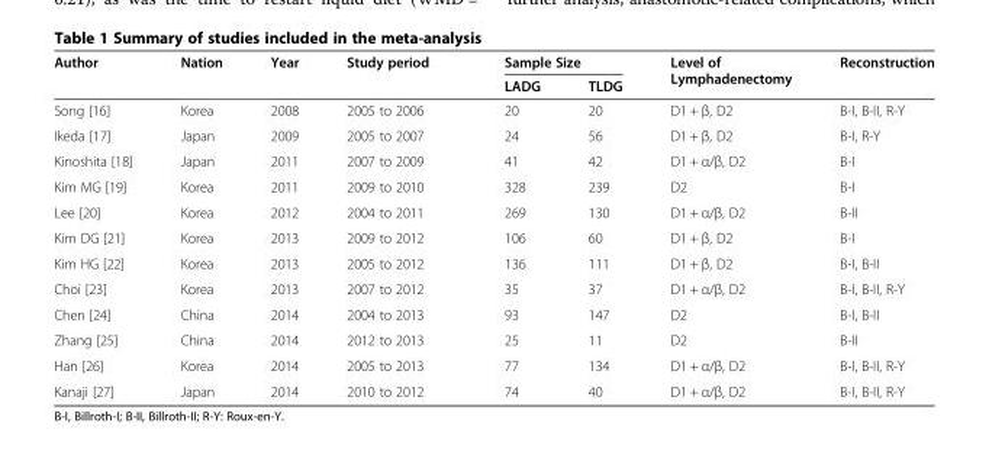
<table><thead><tr><td rowspan="2">Author</td><td rowspan="2">Nation</td><td rowspan="2">Year</td><td rowspan="2">Study period</td><td colspan="2">Sample Size</td><td rowspan="2">Level of Lymphadenectomy</td><td rowspan="2">Reconstruction</td></tr><tr><td>LADG</td><td>TLDG</td></tr></thead><tbody><tr><td>Song [16]</td><td>Korea</td><td>2008</td><td>2005 to 2006</td><td>20</td><td>20</td><td>D1 + β, D2</td><td>B-I, B-II, R-Y</td></tr><tr><td>Ikeda [17]</td><td>Japan</td><td>2009</td><td>2005 to 2007</td><td>24</td><td>56</td><td>D1 + β, D2</td><td>B-I, R-Y</td></tr><tr><td>Kinoshita [18]</td><td>Japan</td><td>2011</td><td>2007 to 2009</td><td>41</td><td>42</td><td>D1 + α/β, D2</td><td>B-I</td></tr><tr><td>Kim MG [19]</td><td>Korea</td><td>2011</td><td>2009 to 2010</td><td>328</td><td>239</td><td>D2</td><td>B-I</td></tr><tr><td>Lee [20]</td><td>Korea</td><td>2012</td><td>2004 to 2011</td><td>269</td><td>130</td><td>D1 + α/β, D2</td><td>B-II</td></tr><tr><td>Kim DG [21]</td><td>Korea</td><td>2013</td><td>2009 to 2012</td><td>106</td><td>60</td><td>D1 + β, D2</td><td>B-I</td></tr><tr><td>Kim HG [22]</td><td>Korea</td><td>2013</td><td>2005 to 2012</td><td>136</td><td>111</td><td>D1 + β, D2</td><td>B-I, B-II</td></tr><tr><td>Choi [23]</td><td>Korea</td><td>2013</td><td>2007 to 2012</td><td>35</td><td>37</td><td>D1 + α/β, D2</td><td>B-I, B-II, R-Y</td></tr><tr><td>Chen [24]</td><td>China</td><td>2014</td><td>2004 to 2013</td><td>93</td><td>147</td><td>D2</td><td>B-I, B-II</td></tr><tr><td>Zhang [25]</td><td>China</td><td>2014</td><td>2012 to 2013</td><td>25</td><td>11</td><td>D2</td><td>B-II</td></tr><tr><td>Han [26]</td><td>Korea</td><td>2014</td><td>2005 to 2013</td><td>77</td><td>134</td><td>D1 + α/β, D2</td><td>B-I, B-II, R-Y</td></tr><tr><td>Kanaji [27]</td><td>Japan</td><td>2014</td><td>2010 to 2012</td><td>74</td><td>40</td><td>D1 + α/β, D2</td><td>B-I, B-II, R-Y</td></tr></tbody></table>